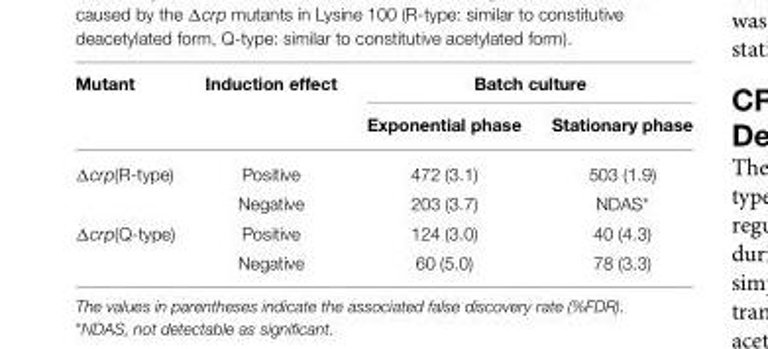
<table><thead><tr><td rowspan="2">Mutant</td><td rowspan="2">Induction effect</td><td colspan="2">Batch culture</td></tr><tr><td>Exponential phase</td><td>Stationary phase</td></tr></thead><tbody><tr><td rowspan="2">Δcrp(R-type)</td><td>Positive</td><td>472 (3.1)</td><td>503 (1.9)</td></tr><tr><td>Negative</td><td>203 (3.7)</td><td>NDAS*</td></tr><tr><td rowspan="2">Δcrp(Q-type)</td><td>Positive</td><td>124 (3.0)</td><td>40 (4.3)</td></tr><tr><td>Negative</td><td>60 (5.0)</td><td>78 (3.3)</td></tr></tbody></table>